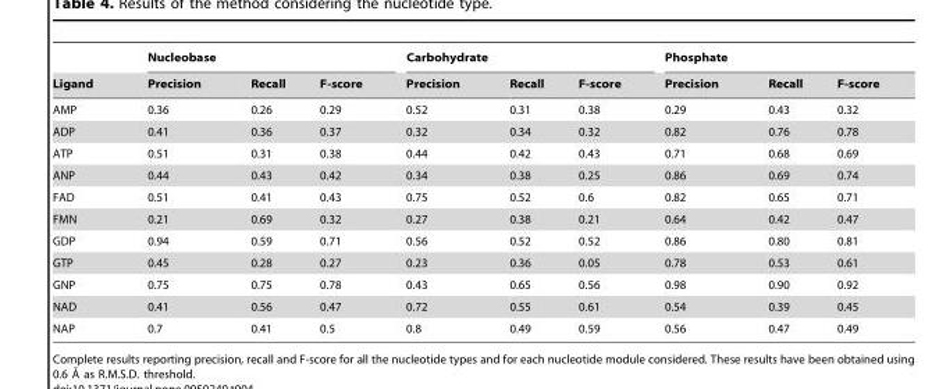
<table><thead><tr><td rowspan="2">Ligand</td><td colspan="3">Nucleobase</td><td colspan="3">Carbohydrate</td><td colspan="3">Phosphate</td></tr><tr><td>Precision</td><td>Recall</td><td>F-score</td><td>Precision</td><td>Recall</td><td>F-score</td><td>Precision</td><td>Recall</td><td>F-score</td></tr></thead><tbody><tr><td>AMP</td><td>0.36</td><td>0.26</td><td>0.29</td><td>0.52</td><td>0.31</td><td>0.38</td><td>0.29</td><td>0.43</td><td>0.32</td></tr><tr><td>ADP</td><td>0.41</td><td>0.36</td><td>0.37</td><td>0.32</td><td>0.34</td><td>0.32</td><td>0.82</td><td>0.76</td><td>0.78</td></tr><tr><td>ATP</td><td>0.51</td><td>0.31</td><td>0.38</td><td>0.44</td><td>0.42</td><td>0.43</td><td>0.71</td><td>0.68</td><td>0.69</td></tr><tr><td>ANP</td><td>0.44</td><td>0.43</td><td>0.42</td><td>0.34</td><td>0.38</td><td>0.25</td><td>0.86</td><td>0.69</td><td>0.74</td></tr><tr><td>FAD</td><td>0.51</td><td>0.41</td><td>0.43</td><td>0.75</td><td>0.52</td><td>0.6</td><td>0.82</td><td>0.65</td><td>0.71</td></tr><tr><td>FMN</td><td>0.21</td><td>0.69</td><td>0.32</td><td>0.27</td><td>0.38</td><td>0.21</td><td>0.64</td><td>0.42</td><td>0.47</td></tr><tr><td>GDP</td><td>0.94</td><td>0.59</td><td>0.71</td><td>0.56</td><td>0.52</td><td>0.52</td><td>0.86</td><td>0.80</td><td>0.81</td></tr><tr><td>GTP</td><td>0.45</td><td>0.28</td><td>0.27</td><td>0.23</td><td>0.36</td><td>0.05</td><td>0.78</td><td>0.53</td><td>0.61</td></tr><tr><td>GNP</td><td>0.75</td><td>0.75</td><td>0.78</td><td>0.43</td><td>0.65</td><td>0.56</td><td>0.98</td><td>0.90</td><td>0.92</td></tr><tr><td>NAD</td><td>0.41</td><td>0.56</td><td>0.47</td><td>0.72</td><td>0.55</td><td>0.61</td><td>0.54</td><td>0.39</td><td>0.45</td></tr><tr><td>NAP</td><td>0.7</td><td>0.41</td><td>0.5</td><td>0.8</td><td>0.49</td><td>0.59</td><td>0.56</td><td>0.47</td><td>0.49</td></tr></tbody></table>